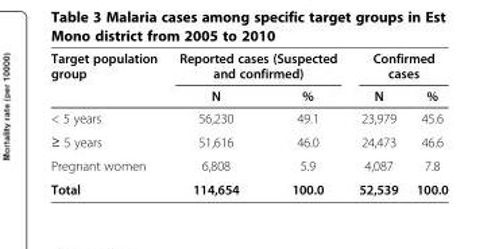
<table><thead><tr><td rowspan="2">Target population group</td><td colspan="2">Reported cases (Suspected and confirmed)</td><td colspan="2">Confirmed cases</td></tr><tr><td>N</td><td>%</td><td>N</td><td>%</td></tr></thead><tbody><tr><td>&lt; 5 years</td><td>56,230</td><td>49.1</td><td>23,979</td><td>45.6</td></tr><tr><td>≥ 5 years</td><td>51,616</td><td>46.0</td><td>24,473</td><td>46.6</td></tr><tr><td>Pregnant women</td><td>6,808</td><td>5.9</td><td>4,087</td><td>7.8</td></tr><tr><td>Total</td><td>114,654</td><td>100.0</td><td>52,539</td><td>100.0</td></tr></tbody></table>